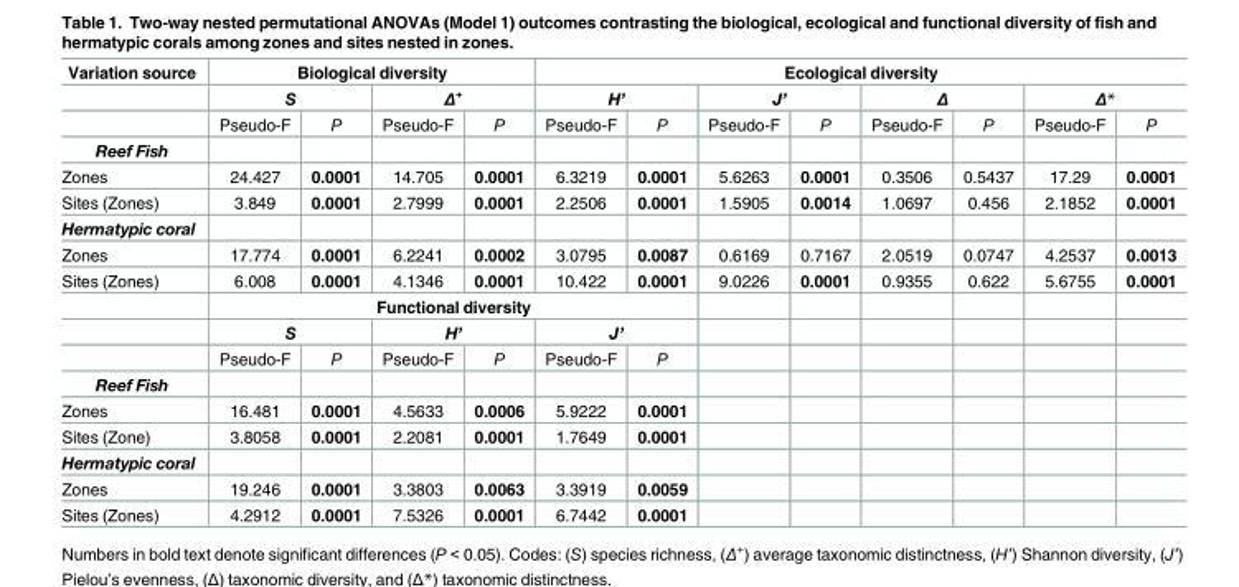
<table><tbody><tr><td rowspan="3">Variation source</td><td colspan="4">Biological diversity</td><td colspan="8">Ecological diversity</td></tr><tr><td colspan="2">S</td><td colspan="2">Δ<sup>+</sup></td><td colspan="2">H’</td><td colspan="2">J’</td><td colspan="2">Δ</td><td colspan="2">Δ*</td></tr><tr><td>Pseudo-F</td><td>P</td><td>Pseudo-F</td><td>P</td><td>Pseudo-F</td><td>P</td><td>Pseudo-F</td><td>P</td><td>Pseudo-F</td><td>P</td><td>Pseudo-F</td><td>P</td></tr><tr><td colspan="13">Reef Fish</td></tr><tr><td>Zones</td><td>24.427</td><td>0.0001</td><td>14.705</td><td>0.0001</td><td>6.3219</td><td>0.0001</td><td>5.6263</td><td>0.0001</td><td>0.3506</td><td>0.5437</td><td>17.29</td><td>0.0001</td></tr><tr><td>Sites (Zones)</td><td>3.849</td><td>0.0001</td><td>2.7999</td><td>0.0001</td><td>2.2506</td><td>0.0001</td><td>1.5905</td><td>0.0014</td><td>1.0697</td><td>0.456</td><td>2.1852</td><td>0.0001</td></tr><tr><td colspan="13">Hermatypic coral</td></tr><tr><td>Zones</td><td>17.774</td><td>0.0001</td><td>6.2241</td><td>0.0002</td><td>3.0795</td><td>0.0087</td><td>0.6169</td><td>0.7167</td><td>2.0519</td><td>0.0747</td><td>4.2537</td><td>0.0013</td></tr><tr><td rowspan="4">Sites (Zones)</td><td>6.008</td><td>0.0001</td><td>4.1346</td><td>0.0001</td><td>10.422</td><td>0.0001</td><td>9.0226</td><td>0.0001</td><td>0.9355</td><td>0.622</td><td>5.6755</td><td>0.0001</td></tr><tr><td colspan="6">Functional diversity</td><td></td><td></td><td></td><td></td><td></td><td></td></tr><tr><td colspan="2">S</td><td colspan="2">H’</td><td colspan="2">J’</td><td></td><td></td><td></td><td></td><td></td><td></td></tr><tr><td>Pseudo-F</td><td>P</td><td>Pseudo-F</td><td>P</td><td>Pseudo-F</td><td>P</td><td></td><td></td><td></td><td></td><td></td><td></td></tr><tr><td colspan="13">Reef Fish</td></tr><tr><td>Zones</td><td>16.481</td><td>0.0001</td><td>4.5633</td><td>0.0006</td><td>5.9222</td><td>0.0001</td><td></td><td></td><td></td><td></td><td></td><td></td></tr><tr><td>Sites (Zone)</td><td>3.8058</td><td>0.0001</td><td>2.2081</td><td>0.0001</td><td>1.7649</td><td>0.0001</td><td></td><td></td><td></td><td></td><td></td><td></td></tr><tr><td colspan="13">Hermatypic coral</td></tr><tr><td>Zones</td><td>19.246</td><td>0.0001</td><td>3.3803</td><td>0.0063</td><td>3.3919</td><td>0.0059</td><td></td><td></td><td></td><td></td><td></td><td></td></tr><tr><td>Sites (Zones)</td><td>4.2912</td><td>0.0001</td><td>7.5326</td><td>0.0001</td><td>6.7442</td><td>0.0001</td><td></td><td></td><td></td><td></td><td></td><td></td></tr></tbody></table>